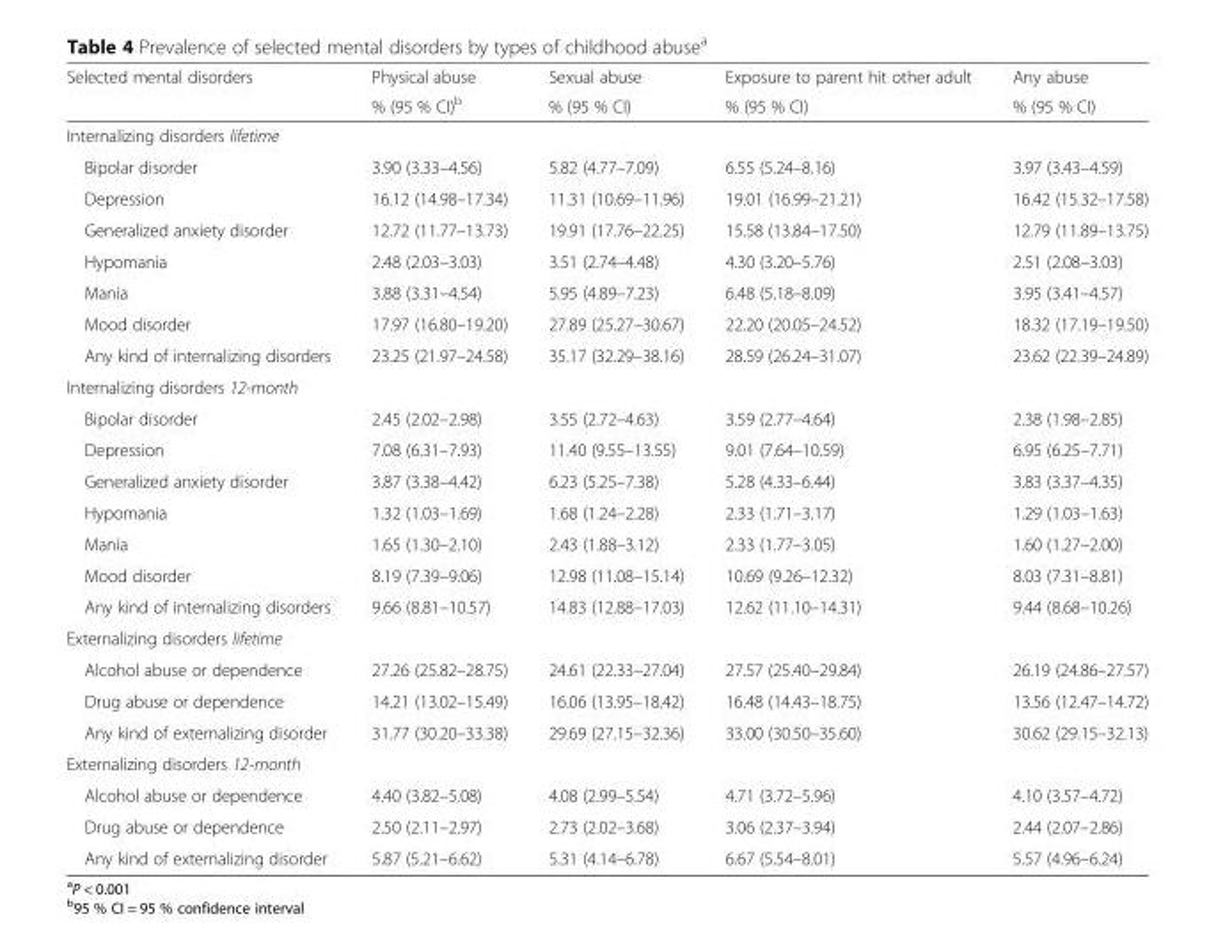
<table><thead><tr><td rowspan="2">Selected mental disorders</td><td rowspan="2">Physical abuse % (95 % CI)<sup>b</sup></td><td rowspan="2">Sexual abuse % (95 % CI)</td><td rowspan="2">Exposure to parent hit other adult % (95 % CI)</td><td rowspan="2">Any abuse % (95 % CI)</td></tr><tr></tr></thead><tbody><tr><td colspan="5">Internalizing disorders lifetime</td></tr><tr><td>Bipolar disorder</td><td>3.90 (3.33–4.56)</td><td>5.82 (4.77–7.09)</td><td>6.55 (5.24–8.16)</td><td>3.97 (3.43–4.59)</td></tr><tr><td>Depression</td><td>16.12 (14.98–17.34)</td><td>11.31 (10.69–11.96)</td><td>19.01 (16.99–21.21)</td><td>16.42 (15.32–17.58)</td></tr><tr><td>Generalized anxiety disorder</td><td>12.72 (11.77–13.73)</td><td>19.91 (17.76–22.25)</td><td>15.58 (13.84–17.50)</td><td>12.79 (11.89–13.75)</td></tr><tr><td>Hypomania</td><td>2.48 (2.03–3.03)</td><td>3.51 (2.74–4.48)</td><td>4.30 (3.20–5.76)</td><td>2.51 (2.08–3.03)</td></tr><tr><td>Mania</td><td>3.88 (3.31–4.54)</td><td>5.95 (4.89–7.23)</td><td>6.48 (5.18–8.09)</td><td>3.95 (3.41–4.57)</td></tr><tr><td>Mood disorder</td><td>17.97 (16.80–19.20)</td><td>27.89 (25.27–30.67)</td><td>22.20 (20.05–24.52)</td><td>18.32 (17.19–19.50)</td></tr><tr><td>Any kind of internalizing disorders</td><td>23.25 (21.97–24.58)</td><td>35.17 (32.29–38.16)</td><td>28.59 (26.24–31.07)</td><td>23.62 (22.39–24.89)</td></tr><tr><td colspan="5">Internalizing disorders 12-month</td></tr><tr><td>Bipolar disorder</td><td>2.45 (2.02–2.98)</td><td>3.55 (2.72–4.63)</td><td>3.59 (2.77–4.64)</td><td>2.38 (1.98–2.85)</td></tr><tr><td>Depression</td><td>7.08 (6.31–7.93)</td><td>11.40 (9.55–13.55)</td><td>9.01 (7.64–10.59)</td><td>6.95 (6.25–7.71)</td></tr><tr><td>Generalized anxiety disorder</td><td>3.87 (3.38–4.42)</td><td>6.23 (5.25–7.38)</td><td>5.28 (4.33–6.44)</td><td>3.83 (3.37–4.35)</td></tr><tr><td>Hypomania</td><td>1.32 (1.03–1.69)</td><td>1.68 (1.24–2.28)</td><td>2.33 (1.71–3.17)</td><td>1.29 (1.03–1.63)</td></tr><tr><td>Mania</td><td>1.65 (1.30–2.10)</td><td>2.43 (1.88–3.12)</td><td>2.33 (1.77–3.05)</td><td>1.60 (1.27–2.00)</td></tr><tr><td>Mood disorder</td><td>8.19 (7.39–9.06)</td><td>12.98 (11.08–15.14)</td><td>10.69 (9.26–12.32)</td><td>8.03 (7.31–8.81)</td></tr><tr><td>Any kind of internalizing disorders</td><td>9.66 (8.81–10.57)</td><td>14.83 (12.88–17.03)</td><td>12.62 (11.10–14.31)</td><td>9.44 (8.68–10.26)</td></tr><tr><td colspan="5">Externalizing disorders lifetime</td></tr><tr><td>Alcohol abuse or dependence</td><td>27.26 (25.82–28.75)</td><td>24.61 (22.33–27.04)</td><td>27.57 (25.40–29.84)</td><td>26.19 (24.86–27.57)</td></tr><tr><td>Drug abuse or dependence</td><td>14.21 (13.02–15.49)</td><td>16.06 (13.95–18.42)</td><td>16.48 (14.43–18.75)</td><td>13.56 (12.47–14.72)</td></tr><tr><td>Any kind of externalizing disorder</td><td>31.77 (30.20–33.38)</td><td>29.69 (27.15–32.36)</td><td>33.00 (30.50–35.60)</td><td>30.62 (29.15–32.13)</td></tr><tr><td colspan="5">Externalizing disorders 12-month</td></tr><tr><td>Alcohol abuse or dependence</td><td>4.40 (3.82–5.08)</td><td>4.08 (2.99–5.54)</td><td>4.71 (3.72–5.96)</td><td>4.10 (3.57–4.72)</td></tr><tr><td>Drug abuse or dependence</td><td>2.50 (2.11–2.97)</td><td>2.73 (2.02–3.68)</td><td>3.06 (2.37–3.94)</td><td>2.44 (2.07–2.86)</td></tr><tr><td>Any kind of externalizing disorder</td><td>5.87 (5.21–6.62)</td><td>5.31 (4.14–6.78)</td><td>6.67 (5.54–8.01)</td><td>5.57 (4.96–6.24)</td></tr></tbody></table>